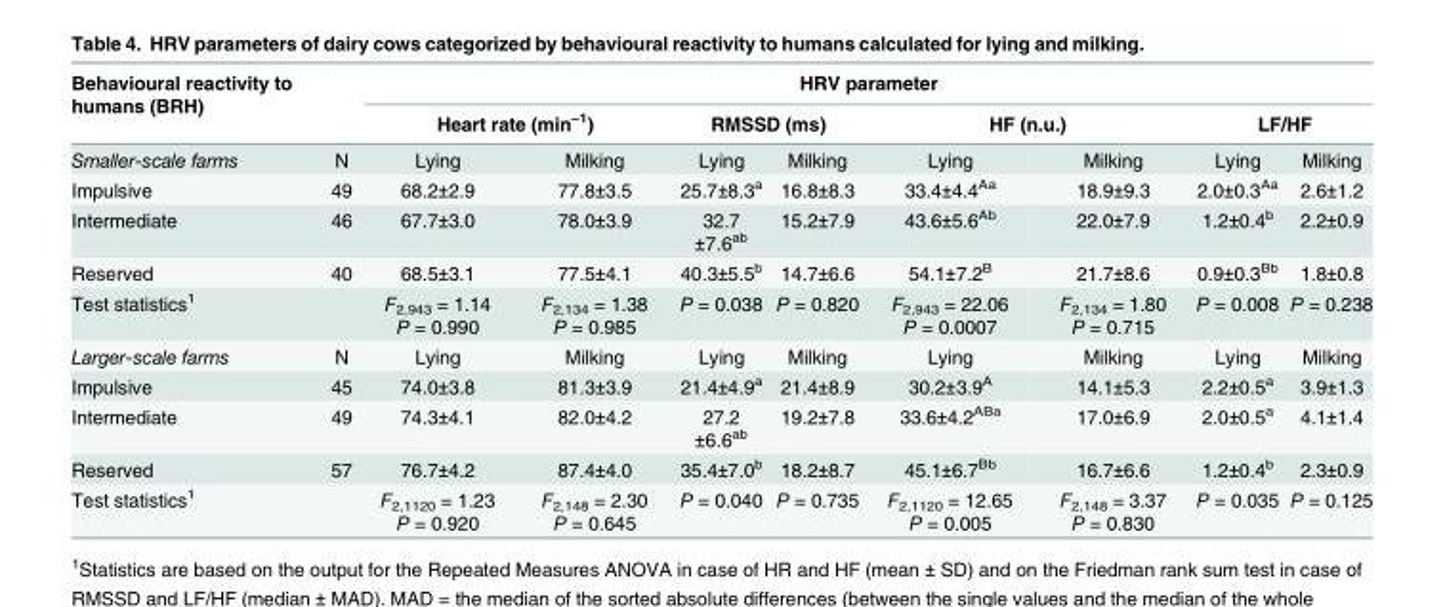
<table><thead><tr><td rowspan="3">Behavioural reactivity to humans (BRH) Smaller-scale farms</td><td rowspan="3">N</td><td colspan="8">HRV parameter</td></tr><tr><td colspan="2">Heart rate (min<sup>–1</sup>)</td><td colspan="2">RMSSD (ms)</td><td colspan="2">HF (n.u.)</td><td colspan="2">LF/HF</td></tr><tr><td>Lying</td><td>Milking</td><td>Lying</td><td>Milking</td><td>Lying</td><td>Milking</td><td>Lying</td><td>Milking</td></tr></thead><tbody><tr><td>Impulsive</td><td>49</td><td>68.2±2.9</td><td>77.8±3.5</td><td>25.7±8.3<sup>a</sup></td><td>16.8±8.3</td><td>33.4±4.4<sup>Aa</sup></td><td>18.9±9.3</td><td>2.0±0.3<sup>Aa</sup></td><td>2.6±1.2</td></tr><tr><td>Intermediate</td><td>46</td><td>67.7±3.0</td><td>78.0±3.9</td><td>32.7 ±7.6<sup>ab</sup></td><td>15.2±7.9</td><td>43.6±5.6<sup>Ab</sup></td><td>22.0±7.9</td><td>1.2±0.4<sup>b</sup></td><td>2.2±0.9</td></tr><tr><td>Reserved</td><td>40</td><td>68.5±3.1</td><td>77.5±4.1</td><td>40.3±5.5<sup>b</sup></td><td>14.7±6.6</td><td>54.1±7.2<sup>B</sup></td><td>21.7±8.6</td><td>0.9±0.3<sup>Bb</sup></td><td>1.8±0.8</td></tr><tr><td>Test statistics<sup>1</sup></td><td></td><td>F<sub>2,943</sub> = 1.14 P = 0.990</td><td>F<sub>2,134</sub> = 1.38 P = 0.985</td><td>P = 0.038</td><td>P = 0.820</td><td>F<sub>2,943</sub> = 22.06 P = 0.0007</td><td>F<sub>2,134</sub> = 1.80 P = 0.715</td><td>P = 0.008</td><td>P = 0.238</td></tr><tr><td>Larger-scale farms</td><td>N</td><td>Lying</td><td>Milking</td><td>Lying</td><td>Milking</td><td>Lying</td><td>Milking</td><td>Lying</td><td>Milking</td></tr><tr><td>Impulsive</td><td>45</td><td>74.0±3.8</td><td>81.3±3.9</td><td>21.4±4.9<sup>a</sup></td><td>21.4±8.9</td><td>30.2±3.9<sup>A</sup></td><td>14.1±5.3</td><td>2.2±0.5<sup>a</sup></td><td>3.9±1.3</td></tr><tr><td>Intermediate</td><td>49</td><td>74.3±4.1</td><td>82.0±4.2</td><td>27.2 ±6.6<sup>ab</sup></td><td>19.2±7.8</td><td>33.6±4.2<sup>ABa</sup></td><td>17.0±6.9</td><td>2.0±0.5<sup>a</sup></td><td>4.1±1.4</td></tr><tr><td>Reserved</td><td>57</td><td>76.7±4.2</td><td>87.4±4.0</td><td>35.4±7.0<sup>b</sup></td><td>18.2±8.7</td><td>45.1±6.7<sup>Bb</sup></td><td>16.7±6.6</td><td>1.2±0.4<sup>b</sup></td><td>2.3±0.9</td></tr><tr><td>Test statistics<sup>1</sup></td><td></td><td>F<sub>2,1120</sub> = 1.23 P = 0.920</td><td>F<sub>2,148</sub> = 2.30 P = 0.645</td><td>P = 0.040</td><td>P = 0.735</td><td>F<sub>2,1120</sub> = 12.65 P = 0.005</td><td>F<sub>2,148</sub> = 3.37 P = 0.830</td><td>P = 0.035</td><td>P = 0.125</td></tr></tbody></table>